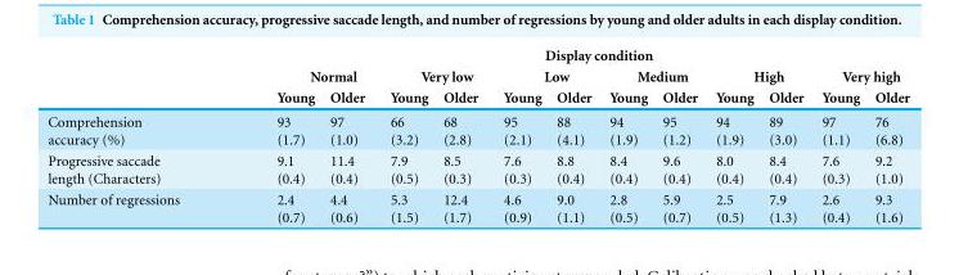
<table><thead><tr><td rowspan="3"></td><td colspan="12">Display condition</td></tr><tr><td colspan="2">Normal</td><td colspan="2">Very low</td><td colspan="2">Low</td><td colspan="2">Medium</td><td colspan="2">High</td><td colspan="2">Very high</td></tr><tr><td>Young</td><td>Older</td><td>Young</td><td>Older</td><td>Young</td><td>Older</td><td>Young</td><td>Older</td><td>Young</td><td>Older</td><td>Young</td><td>Older</td></tr></thead><tbody><tr><td>Comprehension accuracy (%)</td><td>93 (1.7)</td><td>97 (1.0)</td><td>66 (3.2)</td><td>68 (2.8)</td><td>95 (2.1)</td><td>88 (4.1)</td><td>94 (1.9)</td><td>95 (1.2)</td><td>94 (1.9)</td><td>89 (3.0)</td><td>97 (1.1)</td><td>76 (6.8)</td></tr><tr><td>Progressive saccade length (Characters)</td><td>9.1 (0.4)</td><td>11.4 (0.4)</td><td>7.9 (0.5)</td><td>8.5 (0.3)</td><td>7.6 (0.3)</td><td>8.8 (0.4)</td><td>8.4 (0.4)</td><td>9.6 (0.4)</td><td>8.0 (0.4)</td><td>8.4 (0.4)</td><td>7.6 (0.3)</td><td>9.2 (1.0)</td></tr><tr><td>Number of regressions</td><td>2.4 (0.7)</td><td>4.4 (0.6)</td><td>5.3 (1.5)</td><td>12.4 (1.7)</td><td>4.6 (0.9)</td><td>9.0 (1.1)</td><td>2.8 (0.5)</td><td>5.9 (0.7)</td><td>2.5 (0.5)</td><td>7.9 (1.3)</td><td>2.6 (0.4)</td><td>9.3 (1.6)</td></tr></tbody></table>